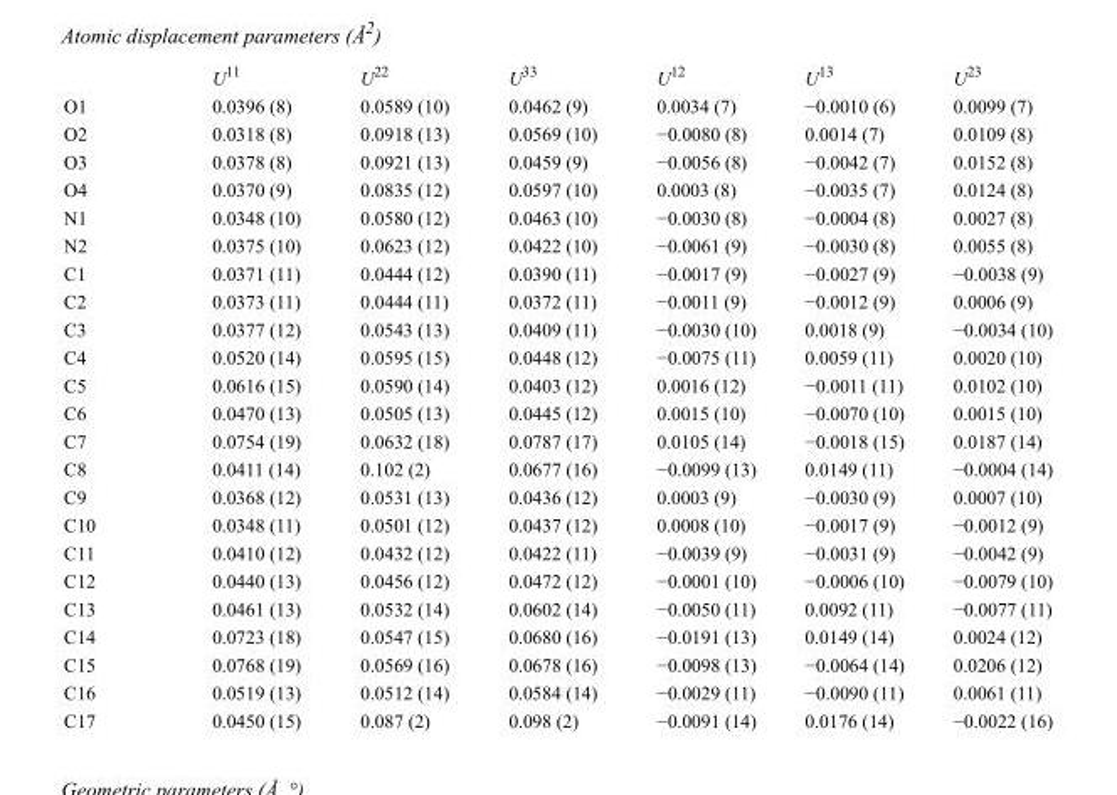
<table><thead><tr><td></td><td>U<sup>11</sup></td><td>U<sup>22</sup></td><td>U<sup>33</sup></td><td>U<sup>12</sup></td><td>U<sup>13</sup></td><td>U<sup>23</sup></td></tr></thead><tbody><tr><td>O1</td><td>0.0396 (8)</td><td>0.0589 (10)</td><td>0.0462 (9)</td><td>0.0034 (7)</td><td>−0.0010 (6)</td><td>0.0099 (7)</td></tr><tr><td>O2</td><td>0.0318 (8)</td><td>0.0918 (13)</td><td>0.0569 (10)</td><td>−0.0080 (8)</td><td>0.0014 (7)</td><td>0.0109 (8)</td></tr><tr><td>O3</td><td>0.0378 (8)</td><td>0.0921 (13)</td><td>0.0459 (9)</td><td>−0.0056 (8)</td><td>−0.0042 (7)</td><td>0.0152 (8)</td></tr><tr><td>O4</td><td>0.0370 (9)</td><td>0.0835 (12)</td><td>0.0597 (10)</td><td>0.0003 (8)</td><td>−0.0035 (7)</td><td>0.0124 (8)</td></tr><tr><td>N1</td><td>0.0348 (10)</td><td>0.0580 (12)</td><td>0.0463 (10)</td><td>−0.0030 (8)</td><td>−0.0004 (8)</td><td>0.0027 (8)</td></tr><tr><td>N2</td><td>0.0375 (10)</td><td>0.0623 (12)</td><td>0.0422 (10)</td><td>−0.0061 (9)</td><td>−0.0030 (8)</td><td>0.0055 (8)</td></tr><tr><td>C1</td><td>0.0371 (11)</td><td>0.0444 (12)</td><td>0.0390 (11)</td><td>−0.0017 (9)</td><td>−0.0027 (9)</td><td>−0.0038 (9)</td></tr><tr><td>C2</td><td>0.0373 (11)</td><td>0.0444 (11)</td><td>0.0372 (11)</td><td>−0.0011 (9)</td><td>−0.0012 (9)</td><td>0.0006 (9)</td></tr><tr><td>C3</td><td>0.0377 (12)</td><td>0.0543 (13)</td><td>0.0409 (11)</td><td>−0.0030 (10)</td><td>0.0018 (9)</td><td>−0.0034 (10)</td></tr><tr><td>C4</td><td>0.0520 (14)</td><td>0.0595 (15)</td><td>0.0448 (12)</td><td>−0.0075 (11)</td><td>0.0059 (11)</td><td>0.0020 (10)</td></tr><tr><td>C5</td><td>0.0616 (15)</td><td>0.0590 (14)</td><td>0.0403 (12)</td><td>0.0016 (12)</td><td>−0.0011 (11)</td><td>0.0102 (10)</td></tr><tr><td>C6</td><td>0.0470 (13)</td><td>0.0505 (13)</td><td>0.0445 (12)</td><td>0.0015 (10)</td><td>−0.0070 (10)</td><td>0.0015 (10)</td></tr><tr><td>C7</td><td>0.0754 (19)</td><td>0.0632 (18)</td><td>0.0787 (17)</td><td>0.0105 (14)</td><td>−0.0018 (15)</td><td>0.0187 (14)</td></tr><tr><td>C8</td><td>0.0411 (14)</td><td>0.102 (2)</td><td>0.0677 (16)</td><td>−0.0099 (13)</td><td>0.0149 (11)</td><td>−0.0004 (14)</td></tr><tr><td>C9</td><td>0.0368 (12)</td><td>0.0531 (13)</td><td>0.0436 (12)</td><td>0.0003 (9)</td><td>−0.0030 (9)</td><td>0.0007 (10)</td></tr><tr><td>C10</td><td>0.0348 (11)</td><td>0.0501 (12)</td><td>0.0437 (12)</td><td>0.0008 (10)</td><td>−0.0017 (9)</td><td>−0.0012 (9)</td></tr><tr><td>C11</td><td>0.0410 (12)</td><td>0.0432 (12)</td><td>0.0422 (11)</td><td>−0.0039 (9)</td><td>−0.0031 (9)</td><td>−0.0042 (9)</td></tr><tr><td>C12</td><td>0.0440 (13)</td><td>0.0456 (12)</td><td>0.0472 (12)</td><td>−0.0001 (10)</td><td>−0.0006 (10)</td><td>−0.0079 (10)</td></tr><tr><td>C13</td><td>0.0461 (13)</td><td>0.0532 (14)</td><td>0.0602 (14)</td><td>−0.0050 (11)</td><td>0.0092 (11)</td><td>−0.0077 (11)</td></tr><tr><td>C14</td><td>0.0723 (18)</td><td>0.0547 (15)</td><td>0.0680 (16)</td><td>−0.0191 (13)</td><td>0.0149 (14)</td><td>0.0024 (12)</td></tr><tr><td>C15</td><td>0.0768 (19)</td><td>0.0569 (16)</td><td>0.0678 (16)</td><td>−0.0098 (13)</td><td>−0.0064 (14)</td><td>0.0206 (12)</td></tr><tr><td>C16</td><td>0.0519 (13)</td><td>0.0512 (14)</td><td>0.0584 (14)</td><td>−0.0029 (11)</td><td>−0.0090 (11)</td><td>0.0061 (11)</td></tr><tr><td>C17</td><td>0.0450 (15)</td><td>0.087 (2)</td><td>0.098 (2)</td><td>−0.0091 (14)</td><td>0.0176 (14)</td><td>−0.0022 (16)</td></tr></tbody></table>